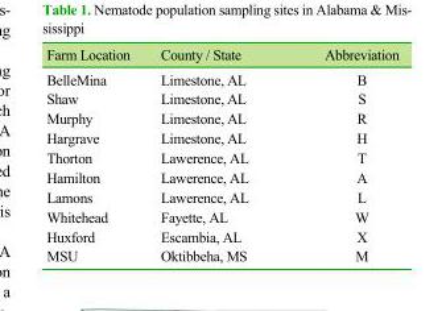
<table><thead><tr><td>Farm Location</td><td>County / State</td><td>Abbreviation</td></tr></thead><tbody><tr><td>BelleMina</td><td>Limestone, AL</td><td>B</td></tr><tr><td>Shaw</td><td>Limestone, AL</td><td>S</td></tr><tr><td>Murphy</td><td>Limestone, AL</td><td>R</td></tr><tr><td>Hargrave</td><td>Limestone, AL</td><td>H</td></tr><tr><td>Thorton</td><td>Lawerence, AL</td><td>T</td></tr><tr><td>Hamilton</td><td>Lawerence, AL</td><td>A</td></tr><tr><td>Lamons</td><td>Lawerence, AL</td><td>L</td></tr><tr><td>Whitehead</td><td>Fayette, AL</td><td>W</td></tr><tr><td>Huxford</td><td>Escambia, AL</td><td>X</td></tr><tr><td>MSU</td><td>Oktibbeha, MS</td><td>M</td></tr></tbody></table>